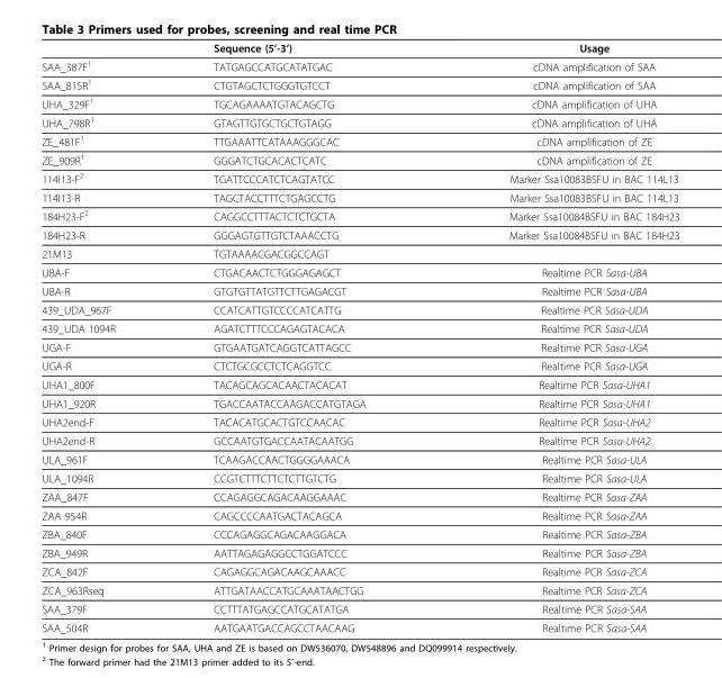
<table><thead><tr><td></td><td>Sequence (5’-3’)</td><td>Usage</td></tr></thead><tbody><tr><td>SAA_387F<sup>1</sup></td><td>TATGAGCCATGCATATGAC</td><td>cDNA amplification of SAA</td></tr><tr><td>SAA_815R<sup>1</sup></td><td>CTGTAGCTCTGGGTGTCCT</td><td>cDNA amplification of SAA</td></tr><tr><td>UHA_329F<sup>1</sup></td><td>TGCAGAAAATGTACAGCTG</td><td>cDNA amplification of UHA</td></tr><tr><td>UHA_798R<sup>1</sup></td><td>GTAGTTGTGCTGCTGTAGG</td><td>cDNA amplification of UHA</td></tr><tr><td>ZE_481F<sup>1</sup></td><td>TTGAAATTCATAAAGGGCAC</td><td>cDNA amplification of ZE</td></tr><tr><td>ZE_909R<sup>1</sup></td><td>GGGATCTGCACACTCATC</td><td>cDNA amplification of ZE</td></tr><tr><td>114I13-F<sup>2</sup></td><td>TGATTCCCATCTCAGTATCC</td><td>Marker Ssa10083BSFU in BAC 114L13</td></tr><tr><td>114I13-R</td><td>TAGCTACCTTTCTGAGCCTG</td><td>Marker Ssa10083BSFU in BAC 114L13</td></tr><tr><td>184H23-F<sup>2</sup></td><td>CAGGCCTTTACTCTCTGCTA</td><td>Marker Ssa10084BSFU in BAC 184H23</td></tr><tr><td>184H23-R</td><td>GGGAGTGTTGTCTAAACCTG</td><td>Marker Ssa10084BSFU in BAC 184H23</td></tr><tr><td>21M13</td><td>TGTAAAACGACGGCCAGT</td><td></td></tr><tr><td>UBA-F</td><td>CTGACAACTCTGGGAGAGCT</td><td>Realtime PCR Sasa-UBA</td></tr><tr><td>UBA-R</td><td>GTGTGTTATGTTCTTGAGACGT</td><td>Realtime PCR Sasa-UBA</td></tr><tr><td>439_UDA_967F</td><td>CCATCATTGTCCCCATCATTG</td><td>Realtime PCR Sasa-UDA</td></tr><tr><td>439_UDA 1094R</td><td>AGATCTTTCCCAGAGTACACA</td><td>Realtime PCR Sasa-UDA</td></tr><tr><td>UGA-F</td><td>GTGAATGATCAGGTCATTAGCC</td><td>Realtime PCR Sasa-UGA</td></tr><tr><td>UGA-R</td><td>CTCTGCGCCTCTCAGGTCC</td><td>Realtime PCR Sasa-UGA</td></tr><tr><td>UHA1_800F</td><td>TACAGCAGCACAACTACACAT</td><td>Realtime PCR Sasa-UHA1</td></tr><tr><td>UHA1_920R</td><td>TGACCAATACCAAGACCATGTAGA</td><td>Realtime PCR Sasa-UHA1</td></tr><tr><td>UHA2end-F</td><td>TACACATGCACTGTCCAACAC</td><td>Realtime PCR Sasa-UHA2</td></tr><tr><td>UHA2end-R</td><td>GCCAATGTGACCAATACAATGG</td><td>Realtime PCR Sasa-UHA2</td></tr><tr><td>ULA_961F</td><td>TCAAGACCAACTGGGGAAACA</td><td>Realtime PCR Sasa-ULA</td></tr><tr><td>ULA_1094R</td><td>CCGTCTTTCTTCTCTTGTCTG</td><td>Realtime PCR Sasa-ULA</td></tr><tr><td>ZAA_847F</td><td>CCAGAGGCAGACAAGGAAAC</td><td>Realtime PCR Sasa-ZAA</td></tr><tr><td>ZAA 954R</td><td>CAGCCCCAATGACTACAGCA</td><td>Realtime PCR Sasa-ZAA</td></tr><tr><td>ZBA_840F</td><td>CCCAGAGGCAGACAAGGACA</td><td>Realtime PCR Sasa-ZBA</td></tr><tr><td>ZBA_949R</td><td>AATTAGAGAGGCCTGGATCCC</td><td>Realtime PCR Sasa-ZBA</td></tr><tr><td>ZCA_842F</td><td>CAGAGGCAGACAAGCAAACC</td><td>Realtime PCR Sasa-ZCA</td></tr><tr><td>ZCA_963Rseq</td><td>ATTGATAACCATGCAAATAACTGG</td><td>Realtime PCR Sasa-ZCA</td></tr><tr><td>SAA_379F</td><td>CCTTTATGAGCCATGCATATGA</td><td>Realtime PCR Sasa-SAA</td></tr><tr><td>SAA_504R</td><td>AATGAATGACCAGCCTAACAAG</td><td>Realtime PCR Sasa-SAA</td></tr></tbody></table>